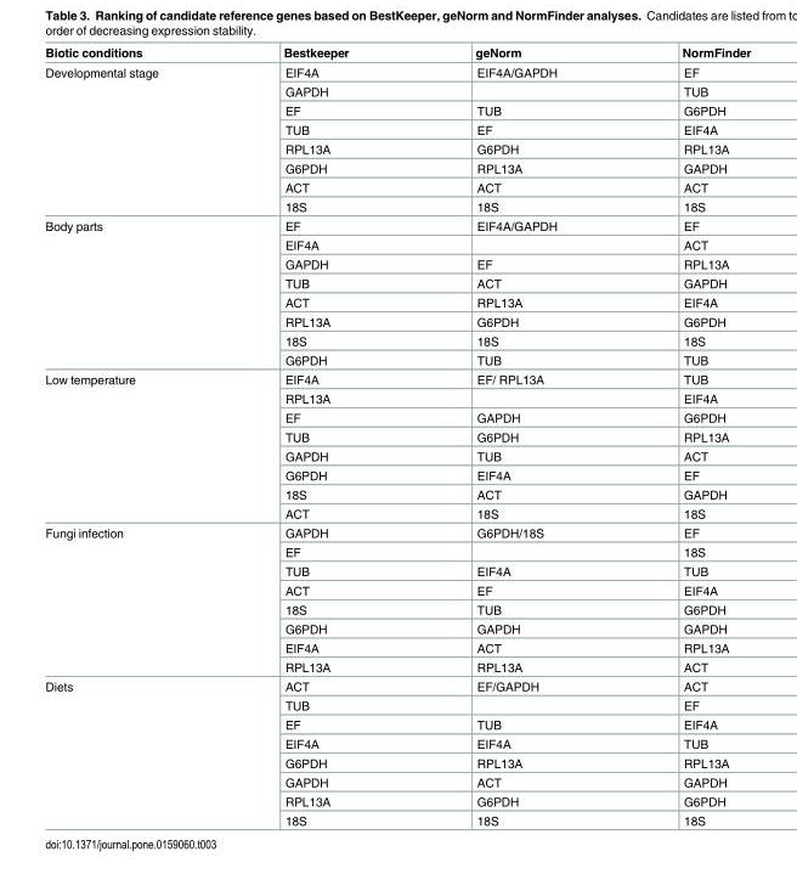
<table><thead><tr><td>Biotic conditions</td><td>Bestkeeper</td><td>geNorm</td><td>NormFinder</td></tr></thead><tbody><tr><td rowspan="8">Developmental stage</td><td>EIF4A</td><td>EIF4A/GAPDH</td><td>EF</td></tr><tr><td>GAPDH</td><td></td><td>TUB</td></tr><tr><td>EF</td><td>TUB</td><td>G6PDH</td></tr><tr><td>TUB</td><td>EF</td><td>EIF4A</td></tr><tr><td>RPL13A</td><td>G6PDH</td><td>RPL13A</td></tr><tr><td>G6PDH</td><td>RPL13A</td><td>GAPDH</td></tr><tr><td>ACT</td><td>ACT</td><td>ACT</td></tr><tr><td>18S</td><td>18S</td><td>18S</td></tr><tr><td rowspan="8">Body parts</td><td>EF</td><td>EIF4A/GAPDH</td><td>EF</td></tr><tr><td>EIF4A</td><td></td><td>ACT</td></tr><tr><td>GAPDH</td><td>EF</td><td>RPL13A</td></tr><tr><td>TUB</td><td>ACT</td><td>GAPDH</td></tr><tr><td>ACT</td><td>RPL13A</td><td>EIF4A</td></tr><tr><td>RPL13A</td><td>G6PDH</td><td>G6PDH</td></tr><tr><td>18S</td><td>18S</td><td>18S</td></tr><tr><td>G6PDH</td><td>TUB</td><td>TUB</td></tr><tr><td rowspan="8">Low temperature</td><td>EIF4A</td><td>EF/ RPL13A</td><td>TUB</td></tr><tr><td>RPL13A</td><td></td><td>EIF4A</td></tr><tr><td>EF</td><td>GAPDH</td><td>G6PDH</td></tr><tr><td>TUB</td><td>G6PDH</td><td>RPL13A</td></tr><tr><td>GAPDH</td><td>TUB</td><td>ACT</td></tr><tr><td>G6PDH</td><td>EIF4A</td><td>EF</td></tr><tr><td>18S</td><td>ACT</td><td>GAPDH</td></tr><tr><td>ACT</td><td>18S</td><td>18S</td></tr><tr><td rowspan="8">Fungi infection</td><td>GAPDH</td><td>G6PDH/18S</td><td>EF</td></tr><tr><td>EF</td><td></td><td>18S</td></tr><tr><td>TUB</td><td>EIF4A</td><td>TUB</td></tr><tr><td>ACT</td><td>EF</td><td>EIF4A</td></tr><tr><td>18S</td><td>TUB</td><td>G6PDH</td></tr><tr><td>G6PDH</td><td>GAPDH</td><td>GAPDH</td></tr><tr><td>EIF4A</td><td>ACT</td><td>RPL13A</td></tr><tr><td>RPL13A</td><td>RPL13A</td><td>ACT</td></tr><tr><td rowspan="8">Diets</td><td>ACT</td><td>EF/GAPDH</td><td>ACT</td></tr><tr><td>TUB</td><td></td><td>EF</td></tr><tr><td>EF</td><td>TUB</td><td>EIF4A</td></tr><tr><td>EIF4A</td><td>EIF4A</td><td>TUB</td></tr><tr><td>G6PDH</td><td>RPL13A</td><td>RPL13A</td></tr><tr><td>GAPDH</td><td>ACT</td><td>GAPDH</td></tr><tr><td>RPL13A</td><td>G6PDH</td><td>G6PDH</td></tr><tr><td>18S</td><td>18S</td><td>18S</td></tr></tbody></table>